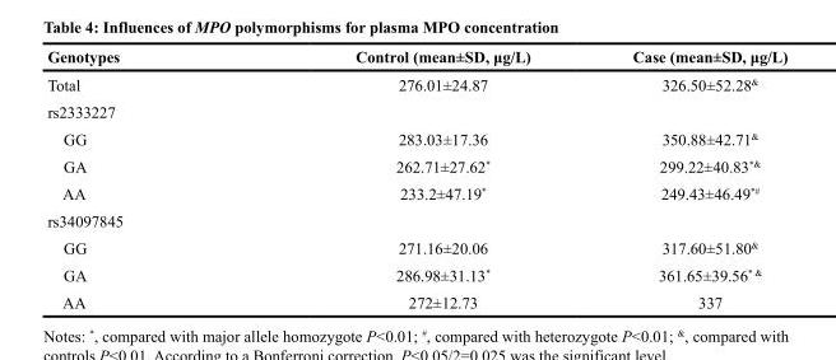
<table><thead><tr><td>Genotypes</td><td>Control (mean±SD, μg/L)</td><td>Case (mean±SD, μg/L)</td></tr></thead><tbody><tr><td>Total</td><td>276.01±24.87</td><td>326.50±52.28<sup>&amp;</sup></td></tr><tr><td colspan="3">rs2333227</td></tr><tr><td>GG</td><td>283.03±17.36</td><td>350.88±42.71<sup>&amp;</sup></td></tr><tr><td>GA</td><td>262.71±27.62*</td><td>299.22±40.83<sup>*&amp;</sup></td></tr><tr><td>AA</td><td>233.2±47.19*</td><td>249.43±46.49<sup>*#</sup></td></tr><tr><td colspan="3">rs34097845</td></tr><tr><td>GG</td><td>271.16±20.06</td><td>317.60±51.80<sup>&amp;</sup></td></tr><tr><td>GA</td><td>286.98±31.13*</td><td>361.65±39.56<sup>* &amp;</sup></td></tr><tr><td>AA</td><td>272±12.73</td><td>337</td></tr></tbody></table>